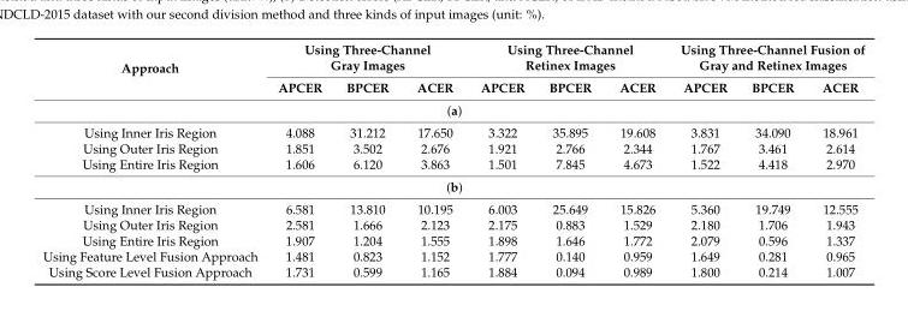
<table><thead><tr><td rowspan="2">Approach</td><td colspan="3">Using Three-Channel Gray Images</td><td colspan="3">Using Three-Channel Retinex Images</td><td colspan="3">Using Three-Channel Fusion of Gray and Retinex Images</td></tr><tr><td>APCER</td><td>BPCER</td><td>ACER</td><td>APCER</td><td>BPCER</td><td>ACER</td><td>APCER</td><td>BPCER</td><td>ACER</td></tr></thead><tbody><tr><td colspan="10">(a)</td></tr><tr><td>Using Inner Iris Region</td><td>4.088</td><td>31.212</td><td>17.650</td><td>3.322</td><td>35.895</td><td>19.608</td><td>3.831</td><td>34.090</td><td>18.961</td></tr><tr><td>Using Outer Iris Region</td><td>1.851</td><td>3.502</td><td>2.676</td><td>1.921</td><td>2.766</td><td>2.344</td><td>1.767</td><td>3.461</td><td>2.614</td></tr><tr><td>Using Entire Iris Region</td><td>1.606</td><td>6.120</td><td>3.863</td><td>1.501</td><td>7.845</td><td>4.673</td><td>1.522</td><td>4.418</td><td>2.970</td></tr><tr><td colspan="10">(b)</td></tr><tr><td>Using Inner Iris Region</td><td>6.581</td><td>13.810</td><td>10.195</td><td>6.003</td><td>25.649</td><td>15.826</td><td>5.360</td><td>19.749</td><td>12.555</td></tr><tr><td>Using Outer Iris Region</td><td>2.581</td><td>1.666</td><td>2.123</td><td>2.175</td><td>0.883</td><td>1.529</td><td>2.180</td><td>1.706</td><td>1.943</td></tr><tr><td>Using Entire Iris Region</td><td>1.907</td><td>1.204</td><td>1.555</td><td>1.898</td><td>1.646</td><td>1.772</td><td>2.079</td><td>0.596</td><td>1.337</td></tr><tr><td>Using Feature Level Fusion Approach</td><td>1.481</td><td>0.823</td><td>1.152</td><td>1.777</td><td>0.140</td><td>0.959</td><td>1.649</td><td>0.281</td><td>0.965</td></tr><tr><td>Using Score Level Fusion Approach</td><td>1.731</td><td>0.599</td><td>1.165</td><td>1.884</td><td>0.094</td><td>0.989</td><td>1.800</td><td>0.214</td><td>1.007</td></tr></tbody></table>